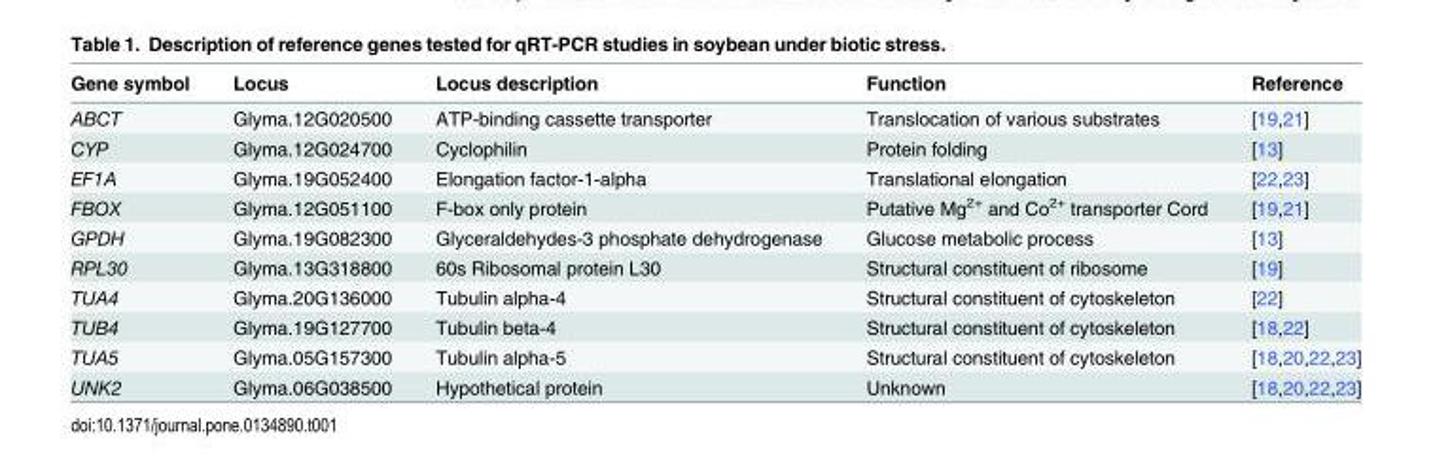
<table><thead><tr><td>Gene symbol</td><td>Locus</td><td>Locus description</td><td>Function</td><td>Reference</td></tr></thead><tbody><tr><td>ABCT</td><td>Glyma.12G020500</td><td>ATP-binding cassette transporter</td><td>Translocation of various substrates</td><td>[19,21]</td></tr><tr><td>CYP</td><td>Glyma.12G024700</td><td>Cyclophilin</td><td>Protein folding</td><td>[13]</td></tr><tr><td>EF1A</td><td>Glyma.19G052400</td><td>Elongation factor-1-alpha</td><td>Translational elongation</td><td>[22,23]</td></tr><tr><td>FBOX</td><td>Glyma.12G051100</td><td>F-box only protein</td><td>Putative Mg<sup>2+</sup> and Co<sup>2+</sup> transporter Cord</td><td>[19,21]</td></tr><tr><td>GPDH</td><td>Glyma.19G082300</td><td>Glyceraldehydes-3 phosphate dehydrogenase</td><td>Glucose metabolic process</td><td>[13]</td></tr><tr><td>RPL30</td><td>Glyma.13G318800</td><td>60s Ribosomal protein L30</td><td>Structural constituent of ribosome</td><td>[19]</td></tr><tr><td>TUA4</td><td>Glyma.20G136000</td><td>Tubulin alpha-4</td><td>Structural constituent of cytoskeleton</td><td>[22]</td></tr><tr><td>TUB4</td><td>Glyma.19G127700</td><td>Tubulin beta-4</td><td>Structural constituent of cytoskeleton</td><td>[18,22]</td></tr><tr><td>TUA5</td><td>Glyma.05G157300</td><td>Tubulin alpha-5</td><td>Structural constituent of cytoskeleton</td><td>[18,20,22,23]</td></tr><tr><td>UNK2</td><td>Glyma.06G038500</td><td>Hypothetical protein</td><td>Unknown</td><td>[18,20,22,23]</td></tr></tbody></table>